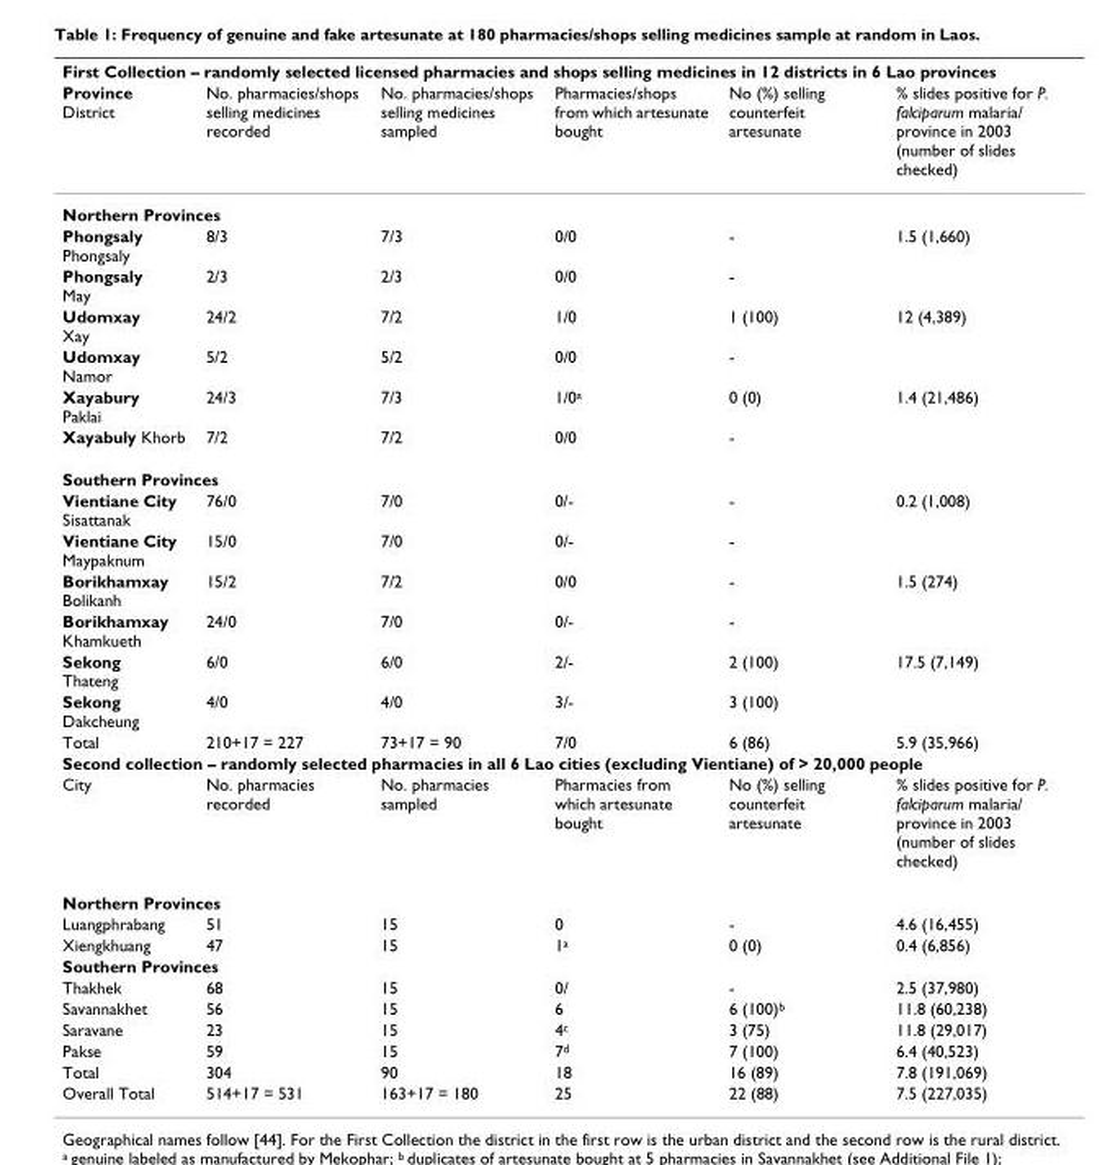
<table><thead><tr><td colspan="6">First Collection – randomly selected licensed pharmacies and shops selling medicines in 12 districts in 6 Lao provinces</td></tr><tr><td>Province District</td><td>No. pharmacies/shops selling medicines recorded</td><td>No. pharmacies/shops selling medicines sampled</td><td>Pharmacies/shops from which artesunate bought</td><td>No (%) selling counterfeit artesunate</td><td>% slides positive for P. falciparum malaria/ province in 2003 (number of slides checked)</td></tr></thead><tbody><tr><td colspan="6">Northern Provinces</td></tr><tr><td>Phongsaly Phongsaly</td><td>8/3</td><td>7/3</td><td>0/0</td><td>-</td><td>1.5 (1,660)</td></tr><tr><td>Phongsaly May</td><td>2/3</td><td>2/3</td><td>0/0</td><td>-</td><td></td></tr><tr><td>Udomxay Xay</td><td>24/2</td><td>7/2</td><td>1/0</td><td>1 (100)</td><td>12 (4,389)</td></tr><tr><td>Udomxay Namor</td><td>5/2</td><td>5/2</td><td>0/0</td><td>-</td><td></td></tr><tr><td>Xayabury Paklai</td><td>24/3</td><td>7/3</td><td>1/0<sup>a</sup></td><td>0 (0)</td><td>1.4 (21,486)</td></tr><tr><td>Xayabuly Khorb</td><td>7/2</td><td>7/2</td><td>0/0</td><td>-</td><td></td></tr><tr><td colspan="6">Southern Provinces</td></tr><tr><td>Vientiane City Sisattanak</td><td>76/0</td><td>7/0</td><td>0/-</td><td>-</td><td>0.2 (1,008)</td></tr><tr><td>Vientiane City Maypaknum</td><td>15/0</td><td>7/0</td><td>0/-</td><td>-</td><td></td></tr><tr><td>Borikhamxay Bolikanh</td><td>15/2</td><td>7/2</td><td>0/0</td><td>-</td><td>1.5 (274)</td></tr><tr><td>Borikhamxay Khamkueth</td><td>24/0</td><td>7/0</td><td>0/-</td><td>-</td><td></td></tr><tr><td>Sekong Thateng</td><td>6/0</td><td>6/0</td><td>2/-</td><td>2 (100)</td><td>17.5 (7,149)</td></tr><tr><td>Sekong Dakcheung</td><td>4/0</td><td>4/0</td><td>3/-</td><td>3 (100)</td><td></td></tr><tr><td>Total</td><td>210+17 = 227</td><td>73+17 = 90</td><td>7/0</td><td>6 (86)</td><td>5.9 (35,966)</td></tr><tr><td colspan="6">Second collection – randomly selected pharmacies in all 6 Lao cities (excluding Vientiane) of &gt; 20,000 people</td></tr><tr><td>City</td><td>No. pharmacies recorded</td><td>No. pharmacies sampled</td><td>Pharmacies from which artesunate bought</td><td>No (%) selling counterfeit artesunate</td><td>% slides positive for P. falciparum malaria/ province in 2003 (number of slides checked)</td></tr><tr><td colspan="6">Northern Provinces</td></tr><tr><td>Luangphrabang</td><td>51</td><td>15</td><td>0</td><td>-</td><td>4.6 (16,455)</td></tr><tr><td>Xiengkhuang</td><td>47</td><td>15</td><td>1<sup>a</sup></td><td>0 (0)</td><td>0.4 (6,856)</td></tr><tr><td colspan="6">Southern Provinces</td></tr><tr><td>Thakhek</td><td>68</td><td>15</td><td>0/</td><td>-</td><td>2.5 (37,980)</td></tr><tr><td>Savannakhet</td><td>56</td><td>15</td><td>6</td><td>6 (100)<sup>b</sup></td><td>11.8 (60,238)</td></tr><tr><td>Saravane</td><td>23</td><td>15</td><td>4<sup>c</sup></td><td>3 (75)</td><td>11.8 (29,017)</td></tr><tr><td>Pakse</td><td>59</td><td>15</td><td>7<sup>d</sup></td><td>7 (100)</td><td>6.4 (40,523)</td></tr><tr><td>Total</td><td>304</td><td>90</td><td>18</td><td>16 (89)</td><td>7.8 (191,069)</td></tr><tr><td>Overall Total</td><td>514+17 = 531</td><td>163+17 = 180</td><td>25</td><td>22 (88)</td><td>7.5 (227,035)</td></tr></tbody></table>